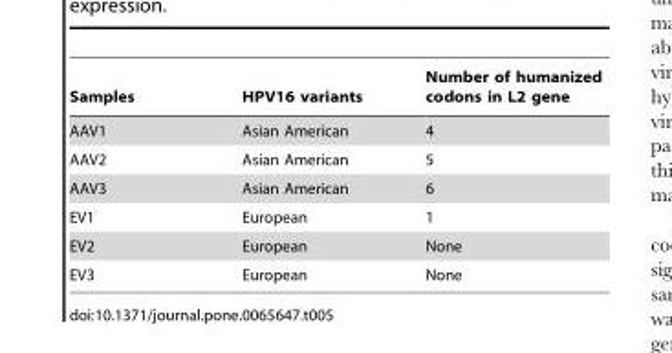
<table><thead><tr><td>Samples</td><td>HPV16 variants</td><td>Number of humanized codons in L2 gene</td></tr></thead><tbody><tr><td>AAV1</td><td>Asian American</td><td>4</td></tr><tr><td>AAV2</td><td>Asian American</td><td>5</td></tr><tr><td>AAV3</td><td>Asian American</td><td>6</td></tr><tr><td>EV1</td><td>European</td><td>1</td></tr><tr><td>EV2</td><td>European</td><td>None</td></tr><tr><td>EV3</td><td>European</td><td>None</td></tr></tbody></table>